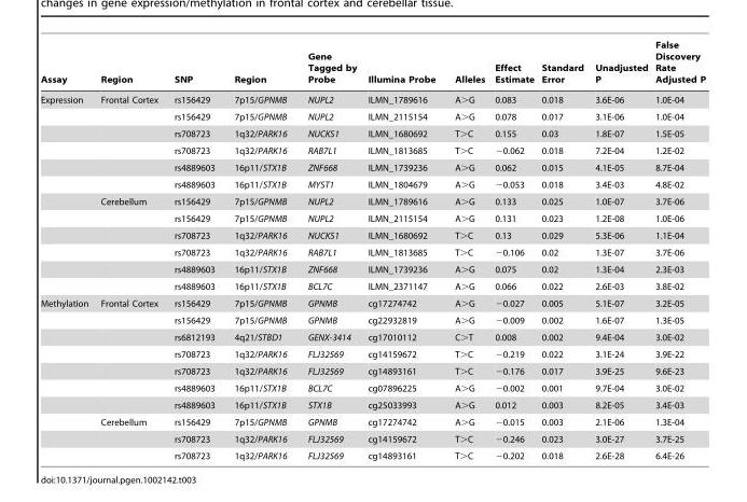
<table><thead><tr><td>Assay</td><td>Region</td><td>SNP</td><td>Region</td><td>Gene Tagged by Probe</td><td>Illumina Probe</td><td>Alleles</td><td>Effect Estimate</td><td>Standard Error</td><td>Unadjusted P</td><td>False Discovery Rate Adjusted P</td></tr></thead><tbody><tr><td rowspan="12">Expression</td><td>Frontal Cortex</td><td>rs156429</td><td>7p15/GPNMB</td><td>NUPL2</td><td>ILMN_1789616</td><td>A&gt;G</td><td>0.083</td><td>0.018</td><td>3.6E-06</td><td>1.0E-04</td></tr><tr><td></td><td>rs156429</td><td>7p15/GPNMB</td><td>NUPL2</td><td>ILMN_2115154</td><td>A&gt;G</td><td>0.078</td><td>0.017</td><td>3.1E-06</td><td>1.0E-04</td></tr><tr><td></td><td>rs708723</td><td>1q32/PARK16</td><td>NUCKS1</td><td>ILMN_1680692</td><td>T&gt;C</td><td>0.155</td><td>0.03</td><td>1.8E-07</td><td>1.5E-05</td></tr><tr><td></td><td>rs708723</td><td>1q32/PARK16</td><td>RAB7L1</td><td>ILMN_1813685</td><td>T&gt;C</td><td>−0.062</td><td>0.018</td><td>7.2E-04</td><td>1.2E-02</td></tr><tr><td></td><td>rs4889603</td><td>16p11/STX1B</td><td>ZNF668</td><td>ILMN_1739236</td><td>A&gt;G</td><td>0.062</td><td>0.015</td><td>4.1E-05</td><td>8.7E-04</td></tr><tr><td></td><td>rs4889603</td><td>16p11/STX1B</td><td>MYST1</td><td>ILMN_1804679</td><td>A&gt;G</td><td>−0.053</td><td>0.018</td><td>3.4E-03</td><td>4.8E-02</td></tr><tr><td>Cerebellum</td><td>rs156429</td><td>7p15/GPNMB</td><td>NUPL2</td><td>ILMN_1789616</td><td>A&gt;G</td><td>0.133</td><td>0.025</td><td>1.0E-07</td><td>3.7E-06</td></tr><tr><td></td><td>rs156429</td><td>7p15/GPNMB</td><td>NUPL2</td><td>ILMN_2115154</td><td>A&gt;G</td><td>0.131</td><td>0.023</td><td>1.2E-08</td><td>1.0E-06</td></tr><tr><td></td><td>rs708723</td><td>1q32/PARK16</td><td>NUCKS1</td><td>ILMN_1680692</td><td>T&gt;C</td><td>0.13</td><td>0.029</td><td>5.3E-06</td><td>1.1E-04</td></tr><tr><td></td><td>rs708723</td><td>1q32/PARK16</td><td>RAB7L1</td><td>ILMN_1813685</td><td>T&gt;C</td><td>−0.106</td><td>0.02</td><td>1.3E-07</td><td>3.7E-06</td></tr><tr><td></td><td>rs4889603</td><td>16p11/STX1B</td><td>ZNF668</td><td>ILMN_1739236</td><td>A&gt;G</td><td>0.075</td><td>0.02</td><td>1.3E-04</td><td>2.3E-03</td></tr><tr><td></td><td>rs4889603</td><td>16p11/STX1B</td><td>BCL7C</td><td>ILMN_2371147</td><td>A&gt;G</td><td>0.066</td><td>0.022</td><td>2.6E-03</td><td>3.8E-02</td></tr><tr><td rowspan="10">Methylation</td><td>Frontal Cortex</td><td>rs156429</td><td>7p15/GPNMB</td><td>GPNMB</td><td>cg17274742</td><td>A&gt;G</td><td>−0.027</td><td>0.005</td><td>5.1E-07</td><td>3.2E-05</td></tr><tr><td></td><td>rs156429</td><td>7p15/GPNMB</td><td>GPNMB</td><td>cg22932819</td><td>A&gt;G</td><td>−0.009</td><td>0.002</td><td>1.6E-07</td><td>1.3E-05</td></tr><tr><td></td><td>rs6812193</td><td>4q21/STBD1</td><td>GENX-3414</td><td>cg17010112</td><td>C&gt;T</td><td>0.008</td><td>0.002</td><td>9.4E-04</td><td>3.0E-02</td></tr><tr><td></td><td>rs708723</td><td>1q32/PARK16</td><td>FLJ32569</td><td>cg14159672</td><td>T&gt;C</td><td>−0.219</td><td>0.022</td><td>3.1E-24</td><td>3.9E-22</td></tr><tr><td></td><td>rs708723</td><td>1q32/PARK16</td><td>FLJ32569</td><td>cg14893161</td><td>T&gt;C</td><td>−0.176</td><td>0.017</td><td>3.9E-25</td><td>9.6E-23</td></tr><tr><td></td><td>rs4889603</td><td>16p11/STX1B</td><td>BCL7C</td><td>cg07896225</td><td>A&gt;G</td><td>−0.002</td><td>0.001</td><td>9.7E-04</td><td>3.0E-02</td></tr><tr><td></td><td>rs4889603</td><td>16p11/STX1B</td><td>STX1B</td><td>cg25033993</td><td>A&gt;G</td><td>0.012</td><td>0.003</td><td>8.2E-05</td><td>3.4E-03</td></tr><tr><td>Cerebellum</td><td>rs156429</td><td>7p15/GPNMB</td><td>GPNMB</td><td>cg17274742</td><td>A&gt;G</td><td>−0.015</td><td>0.003</td><td>2.1E-06</td><td>1.3E-04</td></tr><tr><td></td><td>rs708723</td><td>1q32/PARK16</td><td>FLJ32569</td><td>cg14159672</td><td>T&gt;C</td><td>−0.246</td><td>0.023</td><td>3.0E-27</td><td>3.7E-25</td></tr><tr><td></td><td>rs708723</td><td>1q32/PARK16</td><td>FLJ32569</td><td>cg14893161</td><td>T&gt;C</td><td>−0.202</td><td>0.018</td><td>2.6E-28</td><td>6.4E-26</td></tr></tbody></table>